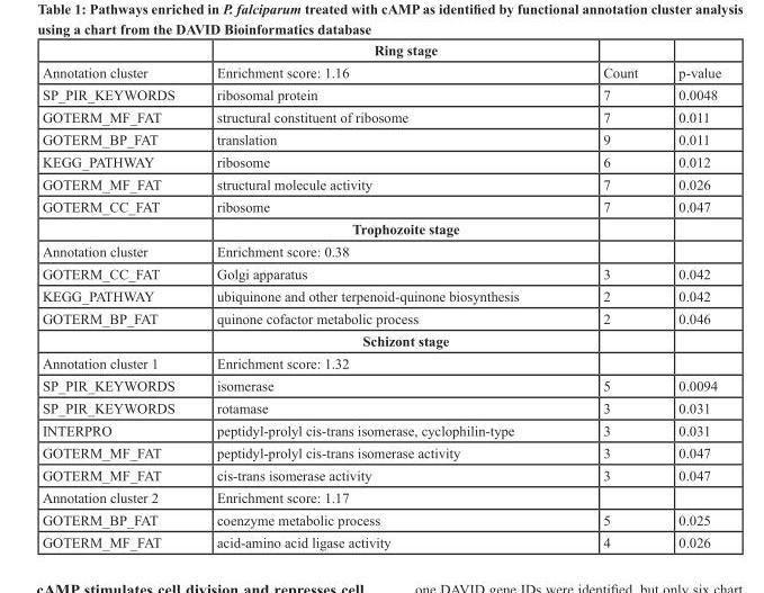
<table><thead><tr><td></td><td>Ring stage</td><td></td><td></td></tr></thead><tbody><tr><td>Annotation cluster</td><td>Enrichment score: 1.16</td><td>Count</td><td>p-value</td></tr><tr><td>SP_PIR_KEYWORDS</td><td>ribosomal protein</td><td>7</td><td>0.0048</td></tr><tr><td>GOTERM_MF_FAT</td><td>structural constituent of ribosome</td><td>7</td><td>0.011</td></tr><tr><td>GOTERM_BP_FAT</td><td>translation</td><td>9</td><td>0.011</td></tr><tr><td>KEGG_PATHWAY</td><td>ribosome</td><td>6</td><td>0.012</td></tr><tr><td>GOTERM_MF_FAT</td><td>structural molecule activity</td><td>7</td><td>0.026</td></tr><tr><td rowspan="2">GOTERM_CC_FAT</td><td>ribosome</td><td>7</td><td>0.047</td></tr><tr><td>Trophozoite stage</td><td></td><td></td></tr><tr><td>Annotation cluster</td><td>Enrichment score: 0.38</td><td></td><td></td></tr><tr><td>GOTERM_CC_FAT</td><td>Golgi apparatus</td><td>3</td><td>0.042</td></tr><tr><td>KEGG_PATHWAY</td><td>ubiquinone and other terpenoid-quinone biosynthesis</td><td>2</td><td>0.042</td></tr><tr><td rowspan="2">GOTERM_BP_FAT</td><td>quinone cofactor metabolic process</td><td>2</td><td>0.046</td></tr><tr><td>Schizont stage</td><td></td><td></td></tr><tr><td>Annotation cluster 1</td><td>Enrichment score: 1.32</td><td></td><td></td></tr><tr><td>SP_PIR_KEYWORDS</td><td>isomerase</td><td>5</td><td>0.0094</td></tr><tr><td>SP_PIR_KEYWORDS</td><td>rotamase</td><td>3</td><td>0.031</td></tr><tr><td>INTERPRO</td><td>peptidyl-prolyl cis-trans isomerase, cyclophilin-type</td><td>3</td><td>0.031</td></tr><tr><td>GOTERM_MF_FAT</td><td>peptidyl-prolyl cis-trans isomerase activity</td><td>3</td><td>0.047</td></tr><tr><td>GOTERM_MF_FAT</td><td>cis-trans isomerase activity</td><td>3</td><td>0.047</td></tr><tr><td>Annotation cluster 2</td><td>Enrichment score: 1.17</td><td></td><td></td></tr><tr><td>GOTERM_BP_FAT</td><td>coenzyme metabolic process</td><td>5</td><td>0.025</td></tr><tr><td>GOTERM_MF_FAT</td><td>acid-amino acid ligase activity</td><td>4</td><td>0.026</td></tr></tbody></table>